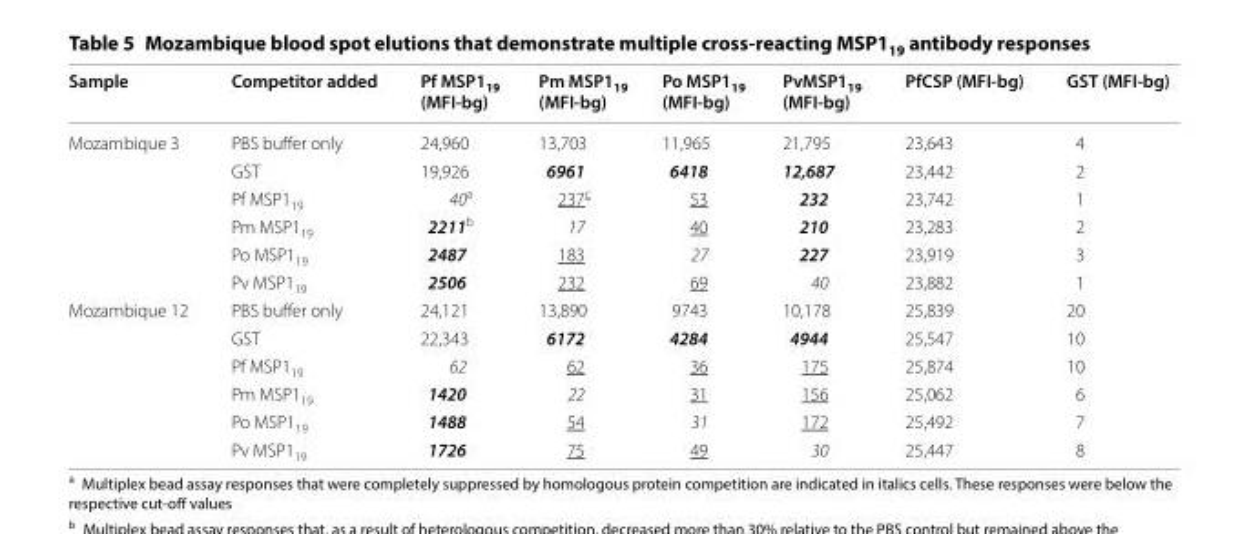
<table><thead><tr><td>Sample</td><td>Competitor added</td><td>Pf MSP1<sub>19</sub> (MFI‑bg)</td><td>Pm MSP1<sub>19</sub> (MFI‑bg)</td><td>Po MSP1<sub>19</sub> (MFI‑bg)</td><td>PvMSP1<sub>19</sub> (MFI‑bg)</td><td>PfCSP (MFI‑bg)</td><td>GST (MFI‑bg)</td></tr></thead><tbody><tr><td rowspan="6">Mozambique 3</td><td>PBS buffer only</td><td>24,960</td><td>13,703</td><td>11,965</td><td>21,795</td><td>23,643</td><td>4</td></tr><tr><td>GST</td><td>19,926</td><td>6961</td><td>6418</td><td>12,687</td><td>23,442</td><td>2</td></tr><tr><td>Pf MSP1<sub>19</sub></td><td>40<sup>a</sup></td><td>237<sup>c</sup></td><td>53</td><td>232</td><td>23,742</td><td>1</td></tr><tr><td>Pm MSP1<sub>19</sub></td><td>2211<sup>b</sup></td><td>17</td><td>40</td><td>210</td><td>23,283</td><td>2</td></tr><tr><td>Po MSP1<sub>19</sub></td><td>2487</td><td>183</td><td>27</td><td>227</td><td>23,919</td><td>3</td></tr><tr><td>Pv MSP1<sub>19</sub></td><td>2506</td><td>232</td><td>69</td><td>40</td><td>23,882</td><td>1</td></tr><tr><td rowspan="6">Mozambique 12</td><td>PBS buffer only</td><td>24,121</td><td>13,890</td><td>9743</td><td>10,178</td><td>25,839</td><td>20</td></tr><tr><td>GST</td><td>22,343</td><td>6172</td><td>4284</td><td>4944</td><td>25,547</td><td>10</td></tr><tr><td>Pf MSP1<sub>19</sub></td><td>62</td><td>62</td><td>36</td><td>175</td><td>25,874</td><td>10</td></tr><tr><td>Pm MSP1<sub>19</sub></td><td>1420</td><td>22</td><td>31</td><td>156</td><td>25,062</td><td>6</td></tr><tr><td>Po MSP1<sub>19</sub></td><td>1488</td><td>54</td><td>31</td><td>172</td><td>25,492</td><td>7</td></tr><tr><td>Pv MSP1<sub>19</sub></td><td>1726</td><td>75</td><td>49</td><td>30</td><td>25,447</td><td>8</td></tr></tbody></table>